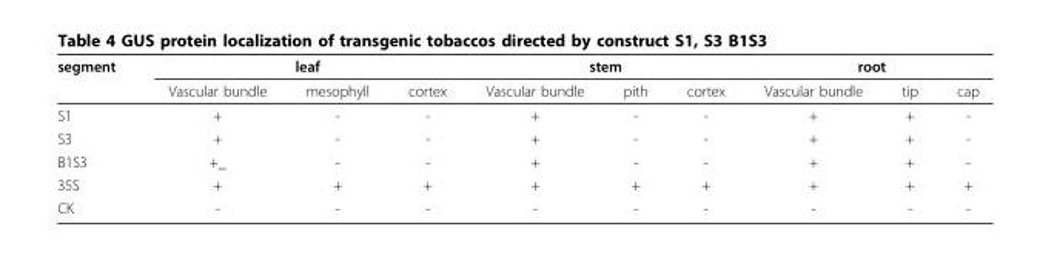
<table><thead><tr><td rowspan="2">segment</td><td colspan="3">leaf</td><td colspan="3">stem</td><td colspan="3">root</td></tr><tr><td>Vascular bundle</td><td>mesophyll</td><td>cortex</td><td>Vascular bundle</td><td>pith</td><td>cortex</td><td>Vascular bundle</td><td>tip</td><td>cap</td></tr></thead><tbody><tr><td>S1</td><td>+</td><td>-</td><td>-</td><td>+</td><td>-</td><td>-</td><td>+</td><td>+</td><td>-</td></tr><tr><td>S3</td><td>+</td><td>-</td><td>-</td><td>+</td><td>-</td><td>-</td><td>+</td><td>+</td><td>-</td></tr><tr><td>B1S3</td><td>+_</td><td>-</td><td>-</td><td>+</td><td>-</td><td>-</td><td>+</td><td>+</td><td>-</td></tr><tr><td>35S</td><td>+</td><td>+</td><td>+</td><td>+</td><td>+</td><td>+</td><td>+</td><td>+</td><td>+</td></tr><tr><td>CK</td><td>-</td><td>-</td><td>-</td><td>-</td><td>-</td><td>-</td><td>-</td><td>-</td><td>-</td></tr></tbody></table>